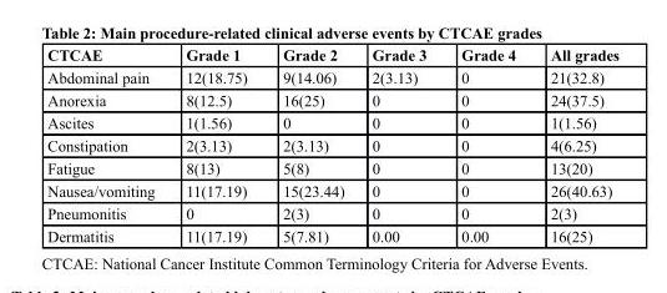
<table><thead><tr><td>ctcAe</td><td>Grade 1</td><td>Grade 2</td><td>Grade 3</td><td>Grade 4</td><td>All grades</td></tr></thead><tbody><tr><td>Abdominal pain</td><td>12(18.75)</td><td>9(14.06)</td><td>2(3.13)</td><td>0</td><td>21(32.8)</td></tr><tr><td>Anorexia</td><td>8(12.5)</td><td>16(25)</td><td>0</td><td>0</td><td>24(37.5)</td></tr><tr><td>Ascites</td><td>1(1.56)</td><td>0</td><td>0</td><td>0</td><td>1(1.56)</td></tr><tr><td>Constipation</td><td>2(3.13)</td><td>2(3.13)</td><td>0</td><td>0</td><td>4(6.25)</td></tr><tr><td>Fatigue</td><td>8(13)</td><td>5(8)</td><td>0</td><td>0</td><td>13(20)</td></tr><tr><td>Nausea/vomiting</td><td>11(17.19)</td><td>15(23.44)</td><td>0</td><td>0</td><td>26(40.63)</td></tr><tr><td>Pneumonitis</td><td>0</td><td>2(3)</td><td>0</td><td>0</td><td>2(3)</td></tr><tr><td>Dermatitis</td><td>11(17.19)</td><td>5(7.81)</td><td>0.00</td><td>0.00</td><td>16(25)</td></tr></tbody></table>